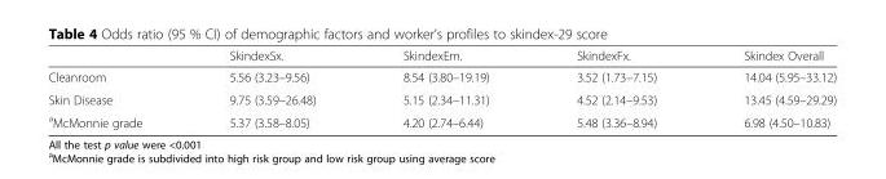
<table><thead><tr><td></td><td>SkindexSx.</td><td>SkindexEm.</td><td>SkindexFx.</td><td>Skindex Overall</td></tr></thead><tbody><tr><td>Cleanroom</td><td>5.56 (3.23–9.56)</td><td>8.54 (3.80–19.19)</td><td>3.52 (1.73–7.15)</td><td>14.04 (5.95–33.12)</td></tr><tr><td>Skin Disease</td><td>9.75 (3.59–26.48)</td><td>5.15 (2.34–11.31)</td><td>4.52 (2.14–9.53)</td><td>13.45 (4.59–29.29)</td></tr><tr><td><sup>a</sup>McMonnie grade</td><td>5.37 (3.58–8.05)</td><td>4.20 (2.74–6.44)</td><td>5.48 (3.36–8.94)</td><td>6.98 (4.50–10.83)</td></tr></tbody></table>